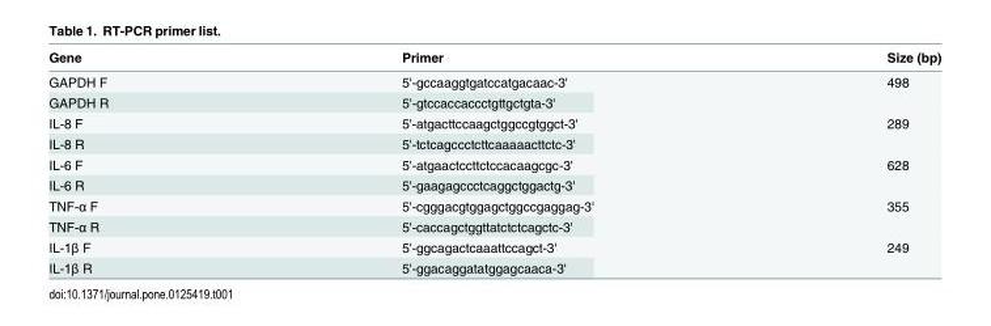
<table><thead><tr><td>Gene</td><td>Primer</td><td>Size (bp)</td></tr></thead><tbody><tr><td>GAPDH F</td><td>5&#x27;-gccaaggtgatccatgacaac-3&#x27;</td><td rowspan="2">498</td></tr><tr><td>GAPDH R</td><td>5&#x27;-gtccaccaccctgttgctgta-3&#x27;</td></tr><tr><td>IL-8 F</td><td>5&#x27;-atgacttccaagctggccgtggct-3&#x27;</td><td rowspan="2">289</td></tr><tr><td>IL-8 R</td><td>5&#x27;-tctcagccctcttcaaaaacttctc-3&#x27;</td></tr><tr><td>IL-6 F</td><td>5&#x27;-atgaactccttctccacaagcgc-3&#x27;</td><td rowspan="2">628</td></tr><tr><td>IL-6 R</td><td>5&#x27;-gaagagccctcaggctggactg-3&#x27;</td></tr><tr><td>TNF-α F</td><td>5&#x27;-cgggacgtggagctggccgaggag-3&#x27;</td><td rowspan="2">355</td></tr><tr><td>TNF-α R</td><td>5&#x27;-caccagctggttatctctcagctc-3&#x27;</td></tr><tr><td>IL-1β F</td><td>5&#x27;-ggcagactcaaattccagct-3&#x27;</td><td rowspan="2">249</td></tr><tr><td>IL-1β R</td><td>5&#x27;-ggacaggatatggagcaaca-3&#x27;</td></tr></tbody></table>